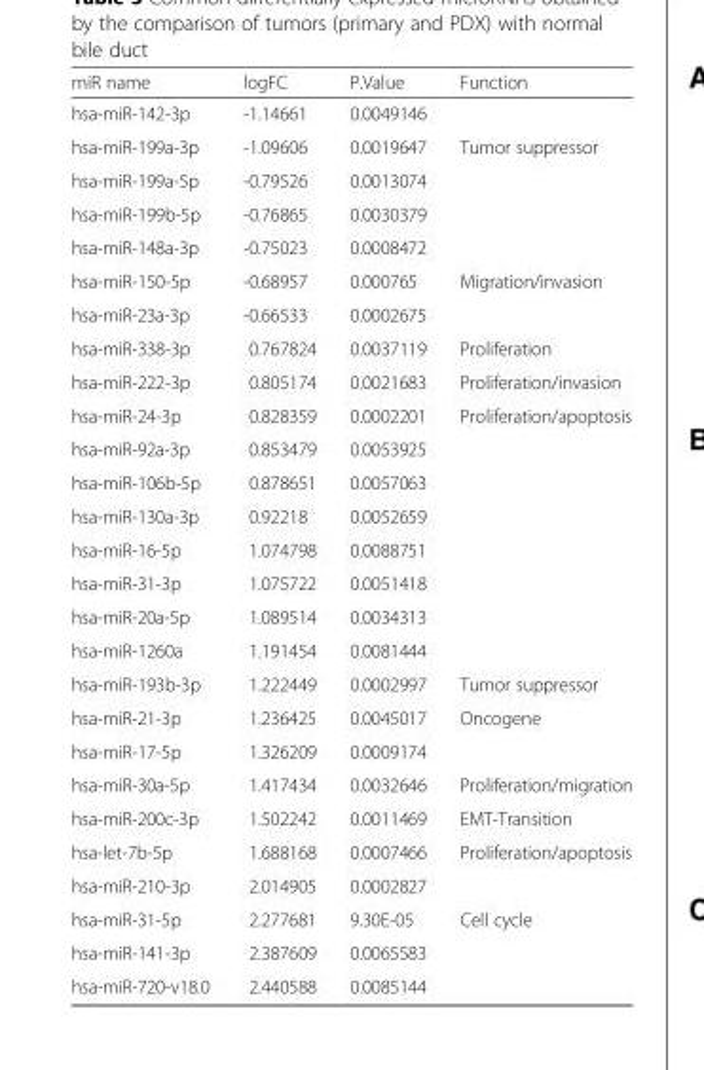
<table><thead><tr><td>miR name</td><td>logFC</td><td>P.Value</td><td>Function</td></tr></thead><tbody><tr><td>hsa-miR-142-3p</td><td>-1.14661</td><td>0.0049146</td><td></td></tr><tr><td>hsa-miR-199a-3p</td><td>-1.09606</td><td>0.0019647</td><td>Tumor suppressor</td></tr><tr><td>hsa-miR-199a-5p</td><td>-0.79526</td><td>0.0013074</td><td></td></tr><tr><td>hsa-miR-199b-5p</td><td>-0.76865</td><td>0.0030379</td><td></td></tr><tr><td>hsa-miR-148a-3p</td><td>-0.75023</td><td>0.0008472</td><td></td></tr><tr><td>hsa-miR-150-5p</td><td>-0.68957</td><td>0.000765</td><td>Migration/invasion</td></tr><tr><td>hsa-miR-23a-3p</td><td>-0.66533</td><td>0.0002675</td><td></td></tr><tr><td>hsa-miR-338-3p</td><td>0.767824</td><td>0.0037119</td><td>Proliferation</td></tr><tr><td>hsa-miR-222-3p</td><td>0.805174</td><td>0.0021683</td><td>Proliferation/invasion</td></tr><tr><td>hsa-miR-24-3p</td><td>0.828359</td><td>0.0002201</td><td>Proliferation/apoptosis</td></tr><tr><td>hsa-miR-92a-3p</td><td>0.853479</td><td>0.0053925</td><td></td></tr><tr><td>hsa-miR-106b-5p</td><td>0.878651</td><td>0.0057063</td><td></td></tr><tr><td>hsa-miR-130a-3p</td><td>0.92218</td><td>0.0052659</td><td></td></tr><tr><td>hsa-miR-16-5p</td><td>1.074798</td><td>0.0088751</td><td></td></tr><tr><td>hsa-miR-31-3p</td><td>1.075722</td><td>0.0051418</td><td></td></tr><tr><td>hsa-miR-20a-5p</td><td>1.089514</td><td>0.0034313</td><td></td></tr><tr><td>hsa-miR-1260a</td><td>1.191454</td><td>0.0081444</td><td></td></tr><tr><td>hsa-miR-193b-3p</td><td>1.222449</td><td>0.0002997</td><td>Tumor suppressor</td></tr><tr><td>hsa-miR-21-3p</td><td>1.236425</td><td>0.0045017</td><td>Oncogene</td></tr><tr><td>hsa-miR-17-5p</td><td>1.326209</td><td>0.0009174</td><td></td></tr><tr><td>hsa-miR-30a-5p</td><td>1.417434</td><td>0.0032646</td><td>Proliferation/migration</td></tr><tr><td>hsa-miR-200c-3p</td><td>1.502242</td><td>0.0011469</td><td>EMT-Transition</td></tr><tr><td>hsa-let-7b-5p</td><td>1.688168</td><td>0.0007466</td><td>Proliferation/apoptosis</td></tr><tr><td>hsa-miR-210-3p</td><td>2.014905</td><td>0.0002827</td><td></td></tr><tr><td>hsa-miR-31-5p</td><td>2.277681</td><td>9.30E-05</td><td>Cell cycle</td></tr><tr><td>hsa-miR-141-3p</td><td>2.387609</td><td>0.0065583</td><td></td></tr><tr><td>hsa-miR-720-v18.0</td><td>2.440588</td><td>0.0085144</td><td></td></tr></tbody></table>